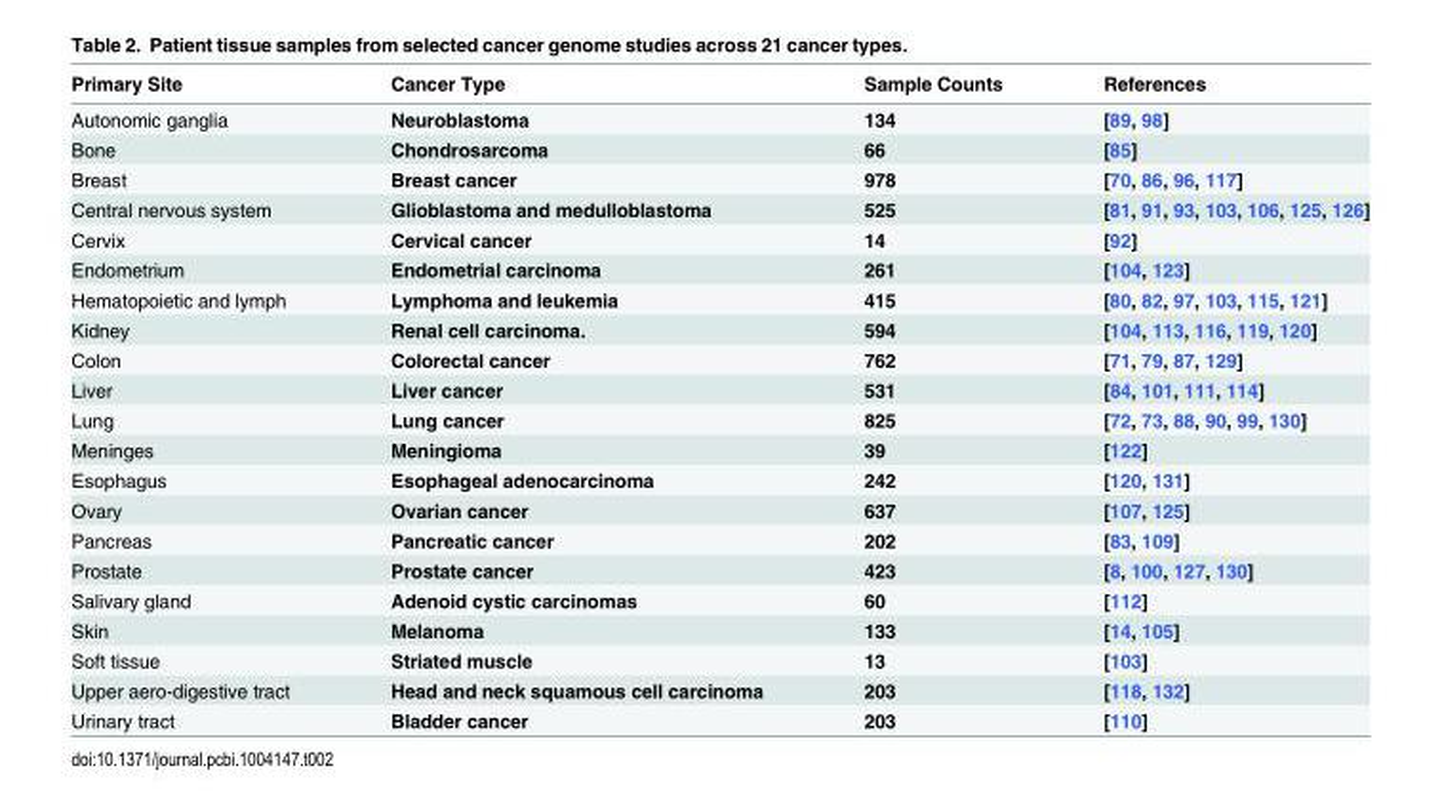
<table><thead><tr><td>Primary Site</td><td>Cancer Type</td><td>Sample Counts</td><td>References</td></tr></thead><tbody><tr><td>Autonomic ganglia</td><td>Neuroblastoma</td><td>134</td><td>[89, 98]</td></tr><tr><td>Bone</td><td>Chondrosarcoma</td><td>66</td><td>[85]</td></tr><tr><td>Breast</td><td>Breast cancer</td><td>978</td><td>[70, 86, 96, 117]</td></tr><tr><td>Central nervous system</td><td>Glioblastoma and medulloblastoma</td><td>525</td><td>[81, 91, 93, 103, 106, 125, 126]</td></tr><tr><td>Cervix</td><td>Cervical cancer</td><td>14</td><td>[92]</td></tr><tr><td>Endometrium</td><td>Endometrial carcinoma</td><td>261</td><td>[104, 123]</td></tr><tr><td>Hematopoietic and lymph</td><td>Lymphoma and leukemia</td><td>415</td><td>[80, 82, 97, 103, 115, 121]</td></tr><tr><td>Kidney</td><td>Renal cell carcinoma.</td><td>594</td><td>[104, 113, 116, 119, 120]</td></tr><tr><td>Colon</td><td>Colorectal cancer</td><td>762</td><td>[71, 79, 87, 129]</td></tr><tr><td>Liver</td><td>Liver cancer</td><td>531</td><td>[84, 101, 111, 114]</td></tr><tr><td>Lung</td><td>Lung cancer</td><td>825</td><td>[72, 73, 88, 90, 99, 130]</td></tr><tr><td>Meninges</td><td>Meningioma</td><td>39</td><td>[122]</td></tr><tr><td>Esophagus</td><td>Esophageal adenocarcinoma</td><td>242</td><td>[120, 131]</td></tr><tr><td>Ovary</td><td>Ovarian cancer</td><td>637</td><td>[107, 125]</td></tr><tr><td>Pancreas</td><td>Pancreatic cancer</td><td>202</td><td>[83, 109]</td></tr><tr><td>Prostate</td><td>Prostate cancer</td><td>423</td><td>[8, 100, 127, 130]</td></tr><tr><td>Salivary gland</td><td>Adenoid cystic carcinomas</td><td>60</td><td>[112]</td></tr><tr><td>Skin</td><td>Melanoma</td><td>133</td><td>[14, 105]</td></tr><tr><td>Soft tissue</td><td>Striated muscle</td><td>13</td><td>[103]</td></tr><tr><td>Upper aero-digestive tract</td><td>Head and neck squamous cell carcinoma</td><td>203</td><td>[118, 132]</td></tr><tr><td>Urinary tract</td><td>Bladder cancer</td><td>203</td><td>[110]</td></tr></tbody></table>